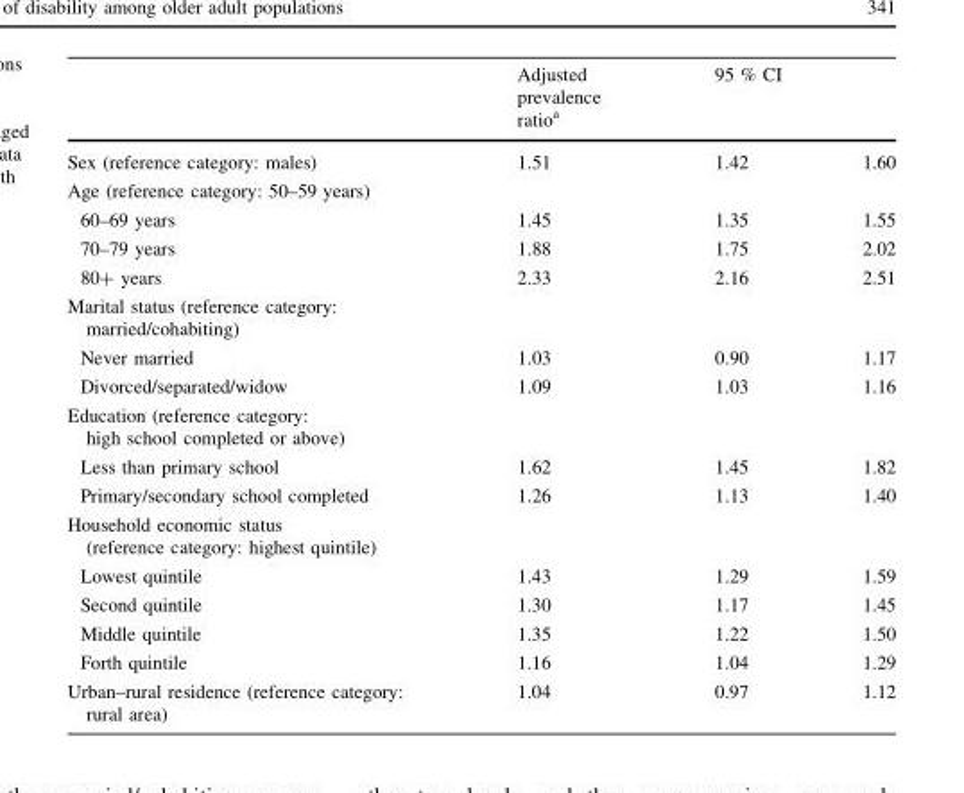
<table><thead><tr><td rowspan="2">Sex (reference category: males)</td><td rowspan="2">Adjusted prevalence ratio<sup>a</sup> 1.51</td><td colspan="2">95 % CI</td></tr><tr><td>1.42</td><td>1.60</td></tr></thead><tbody><tr><td colspan="4">Age (reference category: 50–59 years)</td></tr><tr><td>60–69 years</td><td>1.45</td><td>1.35</td><td>1.55</td></tr><tr><td>70–79 years</td><td>1.88</td><td>1.75</td><td>2.02</td></tr><tr><td>80+ years</td><td>2.33</td><td>2.16</td><td>2.51</td></tr><tr><td colspan="4">Marital status (reference category: married/cohabiting)</td></tr><tr><td>Never married</td><td>1.03</td><td>0.90</td><td>1.17</td></tr><tr><td>Divorced/separated/widow</td><td>1.09</td><td>1.03</td><td>1.16</td></tr><tr><td colspan="4">Education (reference category: high school completed or above)</td></tr><tr><td>Less than primary school</td><td>1.62</td><td>1.45</td><td>1.82</td></tr><tr><td>Primary/secondary school completed</td><td>1.26</td><td>1.13</td><td>1.40</td></tr><tr><td colspan="4">Household economic status (reference category: highest quintile)</td></tr><tr><td>Lowest quintile</td><td>1.43</td><td>1.29</td><td>1.59</td></tr><tr><td>Second quintile</td><td>1.30</td><td>1.17</td><td>1.45</td></tr><tr><td>Middle quintile</td><td>1.35</td><td>1.22</td><td>1.50</td></tr><tr><td>Forth quintile</td><td>1.16</td><td>1.04</td><td>1.29</td></tr><tr><td>Urban–rural residence (reference category: rural area)</td><td>1.04</td><td>0.97</td><td>1.12</td></tr></tbody></table>